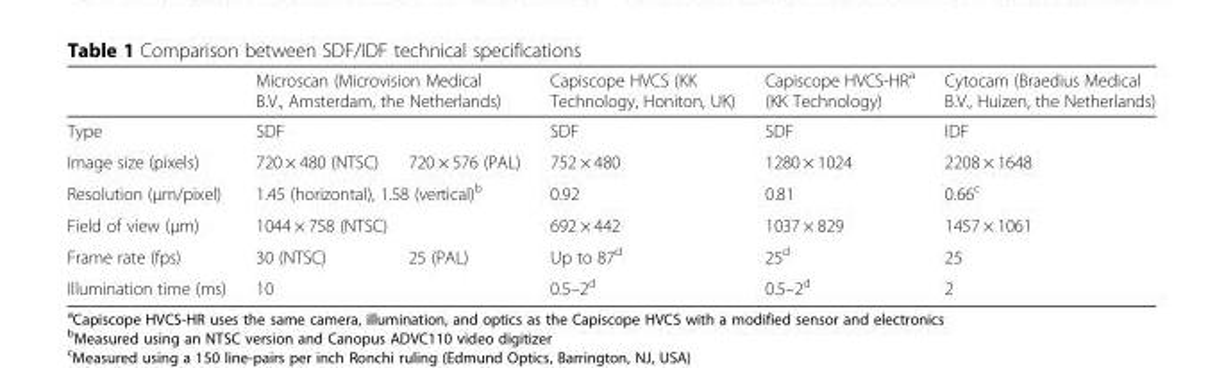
<table><thead><tr><td rowspan="2">Type</td><td colspan="2">Microscan (Microvision Medical B.V., Amsterdam, the Netherlands)</td><td rowspan="2">Capiscope HVCS (KK Technology, Honiton, UK) SDF</td><td rowspan="2">Capiscope HVCS-HR<sup>a</sup> (KK Technology) SDF</td><td rowspan="2">Cytocam (Braedius Medical B.V., Huizen, the Netherlands) IDF</td></tr><tr><td>SDF</td><td></td></tr></thead><tbody><tr><td>Image size (pixels)</td><td>720 × 480 (NTSC)</td><td>720 × 576 (PAL)</td><td>752 × 480</td><td>1280 × 1024</td><td>2208 × 1648</td></tr><tr><td>Resolution (μm/pixel)</td><td colspan="2">1.45 (horizontal), 1.58 (vertical)<sup>b</sup></td><td>0.92</td><td>0.81</td><td>0.66<sup>c</sup></td></tr><tr><td>Field of view (μm)</td><td colspan="2">1044 × 758 (NTSC)</td><td>692 × 442</td><td>1037 × 829</td><td>1457 × 1061</td></tr><tr><td>Frame rate (fps)</td><td>30 (NTSC)</td><td>25 (PAL)</td><td>Up to 87<sup>d</sup></td><td>25<sup>d</sup></td><td>25</td></tr><tr><td>Illumination time (ms)</td><td>10</td><td></td><td>0.5–2<sup>d</sup></td><td>0.5–2<sup>d</sup></td><td>2</td></tr></tbody></table>